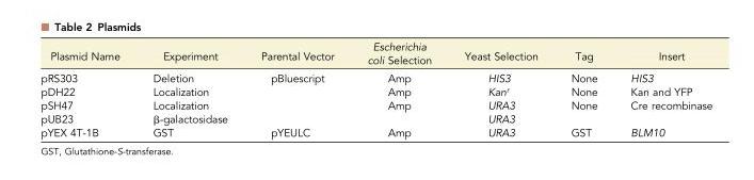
<table><thead><tr><td>Plasmid Name</td><td>Experiment</td><td>Parental Vector</td><td>Escherichia coli Selection</td><td>Yeast Selection</td><td>Tag</td><td>Insert</td></tr></thead><tbody><tr><td>pRS303</td><td>Deletion</td><td>pBluescript</td><td>Amp</td><td>HIS3</td><td>None</td><td>HIS3</td></tr><tr><td>pDH22</td><td>Localization</td><td></td><td>Amp</td><td>Kan<sup>r</sup></td><td>None</td><td>Kan and YFP</td></tr><tr><td>pSH47</td><td>Localization</td><td></td><td>Amp</td><td>URA3</td><td>None</td><td>Cre recombinase</td></tr><tr><td>pUB23</td><td>β-galactosidase</td><td></td><td></td><td>URA3</td><td></td><td></td></tr><tr><td>pYEX 4T-1B</td><td>GST</td><td>pYEULC</td><td>Amp</td><td>URA3</td><td>GST</td><td>BLM10</td></tr></tbody></table>